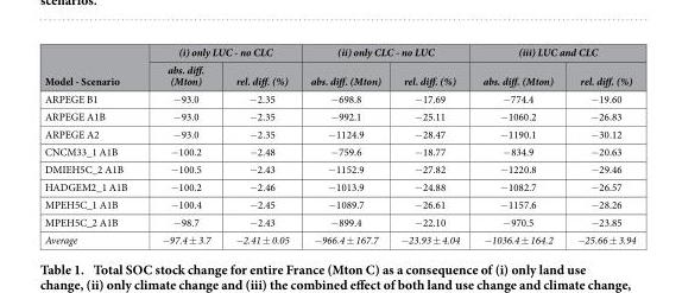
<table><thead><tr><td rowspan="2">Model - Scenario</td><td colspan="2">(i) only LUC - no CLC</td><td colspan="2">(ii) only CLC - no LUC</td><td colspan="2">(iii) LUC and CLC</td></tr><tr><td>abs. diff. (Mton)</td><td>rel. diff. (%)</td><td>abs. diff. (Mton)</td><td>rel. diff. (%)</td><td>abs. diff. (Mton)</td><td>rel. diff. (%)</td></tr></thead><tbody><tr><td>ARPEGE B1</td><td>− 93.0</td><td>− 2.35</td><td>− 698.8</td><td>− 17.69</td><td>− 774.4</td><td>− 19.60</td></tr><tr><td>ARPEGE A1B</td><td>− 93.0</td><td>− 2.35</td><td>− 992.1</td><td>− 25.11</td><td>− 1060.2</td><td>− 26.83</td></tr><tr><td>ARPEGE A2</td><td>− 93.0</td><td>− 2.35</td><td>− 1124.9</td><td>− 28.47</td><td>− 1190.1</td><td>− 30.12</td></tr><tr><td>CNCM33_1 A1B</td><td>− 100.2</td><td>− 2.48</td><td>− 759.6</td><td>− 18.77</td><td>− 834.9</td><td>− 20.63</td></tr><tr><td>DMIEH5C_2 A1B</td><td>− 100.5</td><td>− 2.43</td><td>− 1152.9</td><td>− 27.82</td><td>− 1220.8</td><td>− 29.46</td></tr><tr><td>HADGEM2_1 A1B</td><td>− 100.2</td><td>− 2.46</td><td>− 1013.9</td><td>− 24.88</td><td>− 1082.7</td><td>− 26.57</td></tr><tr><td>MPEH5C_1 A1B</td><td>− 100.4</td><td>− 2.45</td><td>− 1089.7</td><td>− 26.61</td><td>− 1157.6</td><td>− 28.26</td></tr><tr><td>MPEH5C_2 A1B</td><td>− 98.7</td><td>− 2.43</td><td>− 899.4</td><td>− 22.10</td><td>− 970.5</td><td>− 23.85</td></tr><tr><td>Average</td><td>−97.4 ± 3.7</td><td>−2.41 ± 0.05</td><td>−966.4 ± 167.7</td><td>−23.93 ± 4.04</td><td>−1036.4 ± 164.2</td><td>−25.66 ± 3.94</td></tr></tbody></table>